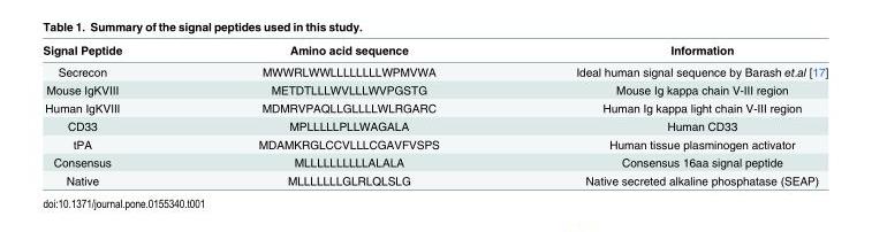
<table><thead><tr><td>Signal Peptide</td><td>Amino acid sequence</td><td>Information</td></tr></thead><tbody><tr><td>Secrecon</td><td>MWWRLWWLLLLLLLLWPMVWA</td><td>Ideal human signal sequence by Barash et.al [17]</td></tr><tr><td>Mouse IgKVIII</td><td>METDTLLLWVLLLWVPGSTG</td><td>Mouse Ig kappa chain V-III region</td></tr><tr><td>Human IgKVIII</td><td>MDMRVPAQLLGLLLLWLRGARC</td><td>Human Ig kappa light chain V-III region</td></tr><tr><td>CD33</td><td>MPLLLLLPLLWAGALA</td><td>Human CD33</td></tr><tr><td>tPA</td><td>MDAMKRGLCCVLLLCGAVFVSPS</td><td>Human tissue plasminogen activator</td></tr><tr><td>Consensus</td><td>MLLLLLLLLLLALALA</td><td>Consensus 16aa signal peptide</td></tr><tr><td>Native</td><td>MLLLLLLLGLRLQLSLG</td><td>Native secreted alkaline phosphatase (SEAP)</td></tr></tbody></table>